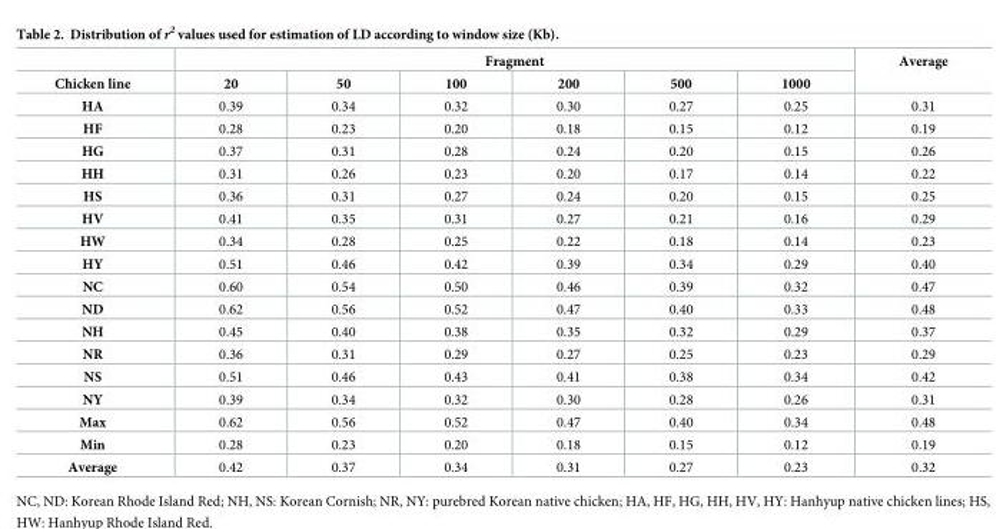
<table><thead><tr><td rowspan="2">Chicken line</td><td colspan="6">Fragment</td><td rowspan="2">Average</td></tr><tr><td>20</td><td>50</td><td>100</td><td>200</td><td>500</td><td>1000</td></tr></thead><tbody><tr><td>HA</td><td>0.39</td><td>0.34</td><td>0.32</td><td>0.30</td><td>0.27</td><td>0.25</td><td>0.31</td></tr><tr><td>HF</td><td>0.28</td><td>0.23</td><td>0.20</td><td>0.18</td><td>0.15</td><td>0.12</td><td>0.19</td></tr><tr><td>HG</td><td>0.37</td><td>0.31</td><td>0.28</td><td>0.24</td><td>0.20</td><td>0.15</td><td>0.26</td></tr><tr><td>HH</td><td>0.31</td><td>0.26</td><td>0.23</td><td>0.20</td><td>0.17</td><td>0.14</td><td>0.22</td></tr><tr><td>HS</td><td>0.36</td><td>0.31</td><td>0.27</td><td>0.24</td><td>0.20</td><td>0.15</td><td>0.25</td></tr><tr><td>HV</td><td>0.41</td><td>0.35</td><td>0.31</td><td>0.27</td><td>0.21</td><td>0.16</td><td>0.29</td></tr><tr><td>HW</td><td>0.34</td><td>0.28</td><td>0.25</td><td>0.22</td><td>0.18</td><td>0.14</td><td>0.23</td></tr><tr><td>HY</td><td>0.51</td><td>0.46</td><td>0.42</td><td>0.39</td><td>0.34</td><td>0.29</td><td>0.40</td></tr><tr><td>NC</td><td>0.60</td><td>0.54</td><td>0.50</td><td>0.46</td><td>0.39</td><td>0.32</td><td>0.47</td></tr><tr><td>ND</td><td>0.62</td><td>0.56</td><td>0.52</td><td>0.47</td><td>0.40</td><td>0.33</td><td>0.48</td></tr><tr><td>NH</td><td>0.45</td><td>0.40</td><td>0.38</td><td>0.35</td><td>0.32</td><td>0.29</td><td>0.37</td></tr><tr><td>NR</td><td>0.36</td><td>0.31</td><td>0.29</td><td>0.27</td><td>0.25</td><td>0.23</td><td>0.29</td></tr><tr><td>NS</td><td>0.51</td><td>0.46</td><td>0.43</td><td>0.41</td><td>0.38</td><td>0.34</td><td>0.42</td></tr><tr><td>NY</td><td>0.39</td><td>0.34</td><td>0.32</td><td>0.30</td><td>0.28</td><td>0.26</td><td>0.31</td></tr><tr><td>Max</td><td>0.62</td><td>0.56</td><td>0.52</td><td>0.47</td><td>0.40</td><td>0.34</td><td>0.48</td></tr><tr><td>Min</td><td>0.28</td><td>0.23</td><td>0.20</td><td>0.18</td><td>0.15</td><td>0.12</td><td>0.19</td></tr><tr><td>Average</td><td>0.42</td><td>0.37</td><td>0.34</td><td>0.31</td><td>0.27</td><td>0.23</td><td>0.32</td></tr></tbody></table>